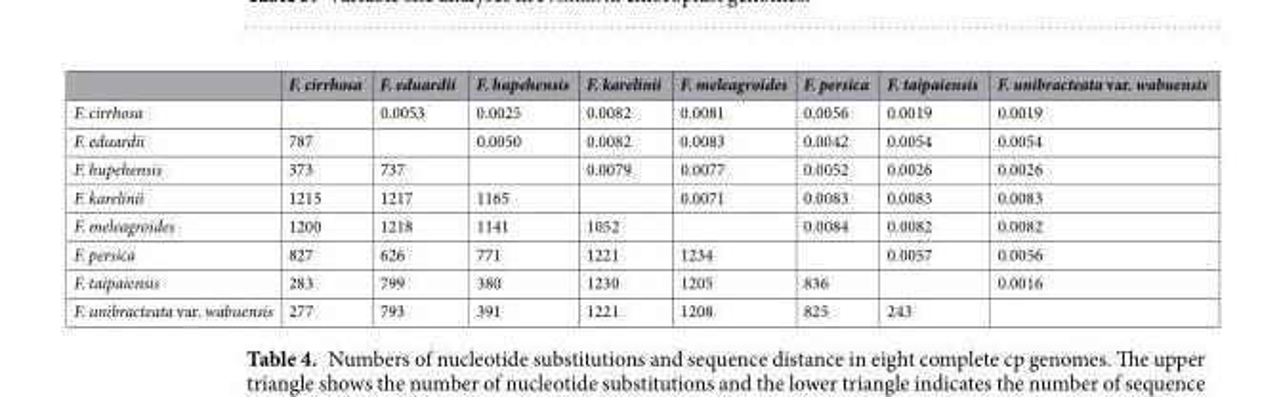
<table><thead><tr><td></td><td>F. cirrhosa</td><td>F. eduardii</td><td>F. hupehensis</td><td>F. karelinii</td><td>F. meleagroides</td><td>F. persica</td><td>F. taipaiensis</td><td>F. unibracteata var. wabuensis</td></tr></thead><tbody><tr><td>F. cirrhosa</td><td></td><td>0.0053</td><td>0.0025</td><td>0.0082</td><td>0.0081</td><td>0.0056</td><td>0.0019</td><td>0.0019</td></tr><tr><td>F. eduardii</td><td>787</td><td></td><td>0.0050</td><td>0.0082</td><td>0.0083</td><td>0.0042</td><td>0.0054</td><td>0.0054</td></tr><tr><td>F. hupehensis</td><td>373</td><td>737</td><td></td><td>0.0079</td><td>0.0077</td><td>0.0052</td><td>0.0026</td><td>0.0026</td></tr><tr><td>F. karelinii</td><td>1215</td><td>1217</td><td>1165</td><td></td><td>0.0071</td><td>0.0083</td><td>0.0083</td><td>0.0083</td></tr><tr><td>F. meleagroides</td><td>1200</td><td>1218</td><td>1141</td><td>1052</td><td></td><td>0.0084</td><td>0.0082</td><td>0.0082</td></tr><tr><td>F. persica</td><td>827</td><td>626</td><td>771</td><td>1221</td><td>1234</td><td></td><td>0.0057</td><td>0.0056</td></tr><tr><td>F. taipaiensis</td><td>283</td><td>799</td><td>380</td><td>1230</td><td>1205</td><td>836</td><td></td><td>0.0016</td></tr><tr><td>F. unibracteata var. wabuensis</td><td>277</td><td>793</td><td>391</td><td>1221</td><td>1208</td><td>825</td><td>243</td><td></td></tr></tbody></table>